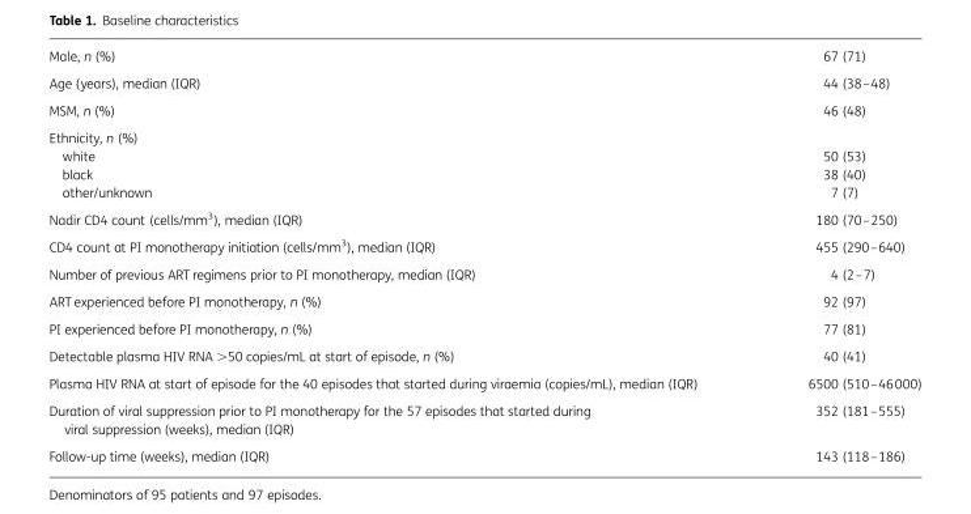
<table><tbody><tr><td>Male, n (%)</td><td>67 (71)</td></tr><tr><td>Age (years), median (IQR)</td><td>44 (38–48)</td></tr><tr><td>MSM, n (%)</td><td>46 (48)</td></tr><tr><td colspan="2">Ethnicity, n (%)</td></tr><tr><td>white</td><td>50 (53)</td></tr><tr><td>black</td><td>38 (40)</td></tr><tr><td>other/unknown</td><td>7 (7)</td></tr><tr><td>Nadir CD4 count (cells/mm<sup>3</sup>), median (IQR)</td><td>180 (70–250)</td></tr><tr><td>CD4 count at PI monotherapy initiation (cells/mm<sup>3</sup>), median (IQR)</td><td>455 (290–640)</td></tr><tr><td>Number of previous ART regimens prior to PI monotherapy, median (IQR)</td><td>4 (2–7)</td></tr><tr><td>ART experienced before PI monotherapy, n (%)</td><td>92 (97)</td></tr><tr><td>PI experienced before PI monotherapy, n (%)</td><td>77 (81)</td></tr><tr><td>Detectable plasma HIV RNA &gt;50 copies/mL at start of episode, n (%)</td><td>40 (41)</td></tr><tr><td>Plasma HIV RNA at start of episode for the 40 episodes that started during viraemia (copies/mL), median (IQR)</td><td>6500 (510–46000)</td></tr><tr><td>Duration of viral suppression prior to PI monotherapy for the 57 episodes that started during viral suppression (weeks), median (IQR)</td><td>352 (181–555)</td></tr><tr><td>Follow-up time (weeks), median (IQR)</td><td>143 (118–186)</td></tr></tbody></table>